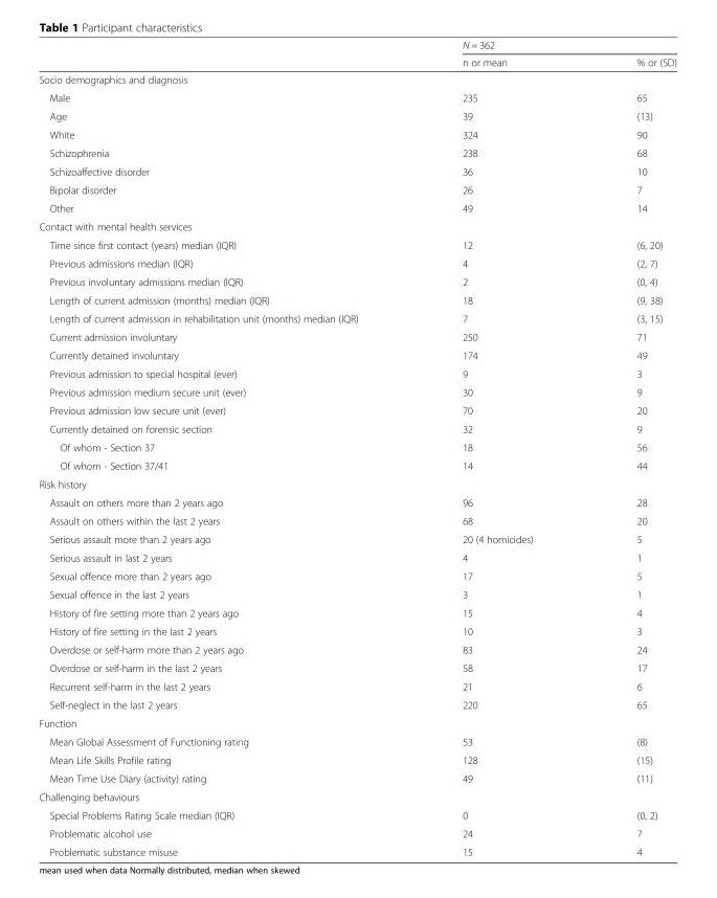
<table><thead><tr><td rowspan="2"></td><td colspan="2">N = 362</td></tr><tr><td>n or mean</td><td>% or (SD)</td></tr></thead><tbody><tr><td colspan="3">Socio demographics and diagnosis</td></tr><tr><td>Male</td><td>235</td><td>65</td></tr><tr><td>Age</td><td>39</td><td>(13)</td></tr><tr><td>White</td><td>324</td><td>90</td></tr><tr><td>Schizophrenia</td><td>238</td><td>68</td></tr><tr><td>Schizoaffective disorder</td><td>36</td><td>10</td></tr><tr><td>Bipolar disorder</td><td>26</td><td>7</td></tr><tr><td>Other</td><td>49</td><td>14</td></tr><tr><td colspan="3">Contact with mental health services</td></tr><tr><td>Time since first contact (years) median (IQR)</td><td>12</td><td>(6, 20)</td></tr><tr><td>Previous admissions median (IQR)</td><td>4</td><td>(2, 7)</td></tr><tr><td>Previous involuntary admissions median (IQR)</td><td>2</td><td>(0, 4)</td></tr><tr><td>Length of current admission (months) median (IQR)</td><td>18</td><td>(9, 38)</td></tr><tr><td>Length of current admission in rehabilitation unit (months) median (IQR)</td><td>7</td><td>(3, 15)</td></tr><tr><td>Current admission involuntary</td><td>250</td><td>71</td></tr><tr><td>Currently detained involuntary</td><td>174</td><td>49</td></tr><tr><td>Previous admission to special hospital (ever)</td><td>9</td><td>3</td></tr><tr><td>Previous admission medium secure unit (ever)</td><td>30</td><td>9</td></tr><tr><td>Previous admission low secure unit (ever)</td><td>70</td><td>20</td></tr><tr><td>Currently detained on forensic section</td><td>32</td><td>9</td></tr><tr><td>Of whom - Section 37</td><td>18</td><td>56</td></tr><tr><td>Of whom - Section 37/41</td><td>14</td><td>44</td></tr><tr><td colspan="3">Risk history</td></tr><tr><td>Assault on others more than 2 years ago</td><td>96</td><td>28</td></tr><tr><td>Assault on others within the last 2 years</td><td>68</td><td>20</td></tr><tr><td>Serious assault more than 2 years ago</td><td>20 (4 homicides)</td><td>5</td></tr><tr><td>Serious assault in last 2 years</td><td>4</td><td>1</td></tr><tr><td>Sexual offence more than 2 years ago</td><td>17</td><td>5</td></tr><tr><td>Sexual offence in the last 2 years</td><td>3</td><td>1</td></tr><tr><td>History of fire setting more than 2 years ago</td><td>15</td><td>4</td></tr><tr><td>History of fire setting in the last 2 years</td><td>10</td><td>3</td></tr><tr><td>Overdose or self-harm more than 2 years ago</td><td>83</td><td>24</td></tr><tr><td>Overdose or self-harm in the last 2 years</td><td>58</td><td>17</td></tr><tr><td>Recurrent self-harm in the last 2 years</td><td>21</td><td>6</td></tr><tr><td>Self-neglect in the last 2 years</td><td>220</td><td>65</td></tr><tr><td colspan="3">Function</td></tr><tr><td>Mean Global Assessment of Functioning rating</td><td>53</td><td>(8)</td></tr><tr><td>Mean Life Skills Profile rating</td><td>128</td><td>(15)</td></tr><tr><td>Mean Time Use Diary (activity) rating</td><td>49</td><td>(11)</td></tr><tr><td colspan="3">Challenging behaviours</td></tr><tr><td>Special Problems Rating Scale median (IQR)</td><td>0</td><td>(0, 2)</td></tr><tr><td>Problematic alcohol use</td><td>24</td><td>7</td></tr><tr><td>Problematic substance misuse</td><td>15</td><td>4</td></tr></tbody></table>